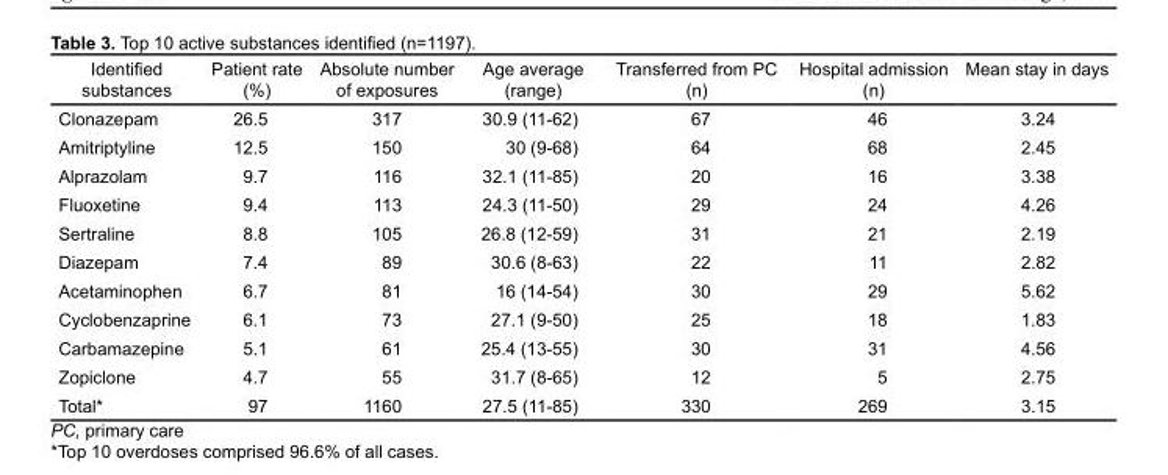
<table><thead><tr><td>Identified substances</td><td>Patient rate (%)</td><td>Absolute number of exposures</td><td>Age average (range)</td><td>Transferred from PC (n)</td><td>Hospital admission (n)</td><td>Mean stay in days</td></tr></thead><tbody><tr><td>Clonazepam</td><td>26.5</td><td>317</td><td>30.9 (11-62)</td><td>67</td><td>46</td><td>3.24</td></tr><tr><td>Amitriptyline</td><td>12.5</td><td>150</td><td>30 (9-68)</td><td>64</td><td>68</td><td>2.45</td></tr><tr><td>Alprazolam</td><td>9.7</td><td>116</td><td>32.1 (11-85)</td><td>20</td><td>16</td><td>3.38</td></tr><tr><td>Fluoxetine</td><td>9.4</td><td>113</td><td>24.3 (11-50)</td><td>29</td><td>24</td><td>4.26</td></tr><tr><td>Sertraline</td><td>8.8</td><td>105</td><td>26.8 (12-59)</td><td>31</td><td>21</td><td>2.19</td></tr><tr><td>Diazepam</td><td>7.4</td><td>89</td><td>30.6 (8-63)</td><td>22</td><td>11</td><td>2.82</td></tr><tr><td>Acetaminophen</td><td>6.7</td><td>81</td><td>16 (14-54)</td><td>30</td><td>29</td><td>5.62</td></tr><tr><td>Cyclobenzaprine</td><td>6.1</td><td>73</td><td>27.1 (9-50)</td><td>25</td><td>18</td><td>1.83</td></tr><tr><td>Carbamazepine</td><td>5.1</td><td>61</td><td>25.4 (13-55)</td><td>30</td><td>31</td><td>4.56</td></tr><tr><td>Zopiclone</td><td>4.7</td><td>55</td><td>31.7 (8-65)</td><td>12</td><td>5</td><td>2.75</td></tr><tr><td>Total*</td><td>97</td><td>1160</td><td>27.5 (11-85)</td><td>330</td><td>269</td><td>3.15</td></tr></tbody></table>